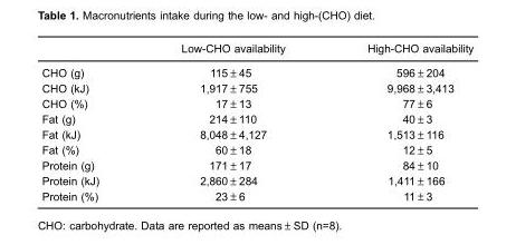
<table><thead><tr><td></td><td>Low-CHO availability</td><td>High-CHO availability</td></tr></thead><tbody><tr><td>CHO (g)</td><td>115±45</td><td>596±204</td></tr><tr><td>CHO (kJ)</td><td>1,917±755</td><td>9,968±3,413</td></tr><tr><td>CHO (%)</td><td>17±13</td><td>77±6</td></tr><tr><td>Fat (g)</td><td>214±110</td><td>40±3</td></tr><tr><td>Fat (kJ)</td><td>8,048±4,127</td><td>1,513±116</td></tr><tr><td>Fat (%)</td><td>60±18</td><td>12±5</td></tr><tr><td>Protein (g)</td><td>171±17</td><td>84±10</td></tr><tr><td>Protein (kJ)</td><td>2,860±284</td><td>1,411±166</td></tr><tr><td>Protein (%)</td><td>23±6</td><td>11±3</td></tr></tbody></table>